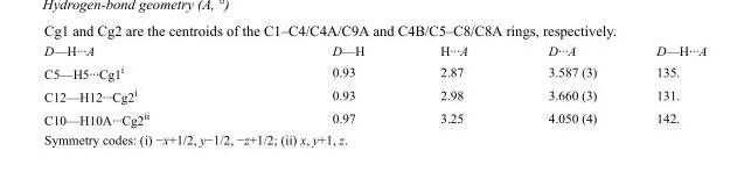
<table><tbody><tr><td>D—H···A</td><td>D—H</td><td>H···A</td><td>D···A</td><td>D—H···A</td></tr><tr><td>C5—H5···Cg1<sup>i</sup></td><td>0.93</td><td>2.87</td><td>3.587 (3)</td><td>135.</td></tr><tr><td>C12—H12···Cg2<sup>i</sup></td><td>0.93</td><td>2.98</td><td>3.660 (3)</td><td>131.</td></tr><tr><td>C10—H10A···Cg2<sup>ii</sup></td><td>0.97</td><td>3.25</td><td>4.050 (4)</td><td>142.</td></tr></tbody></table>